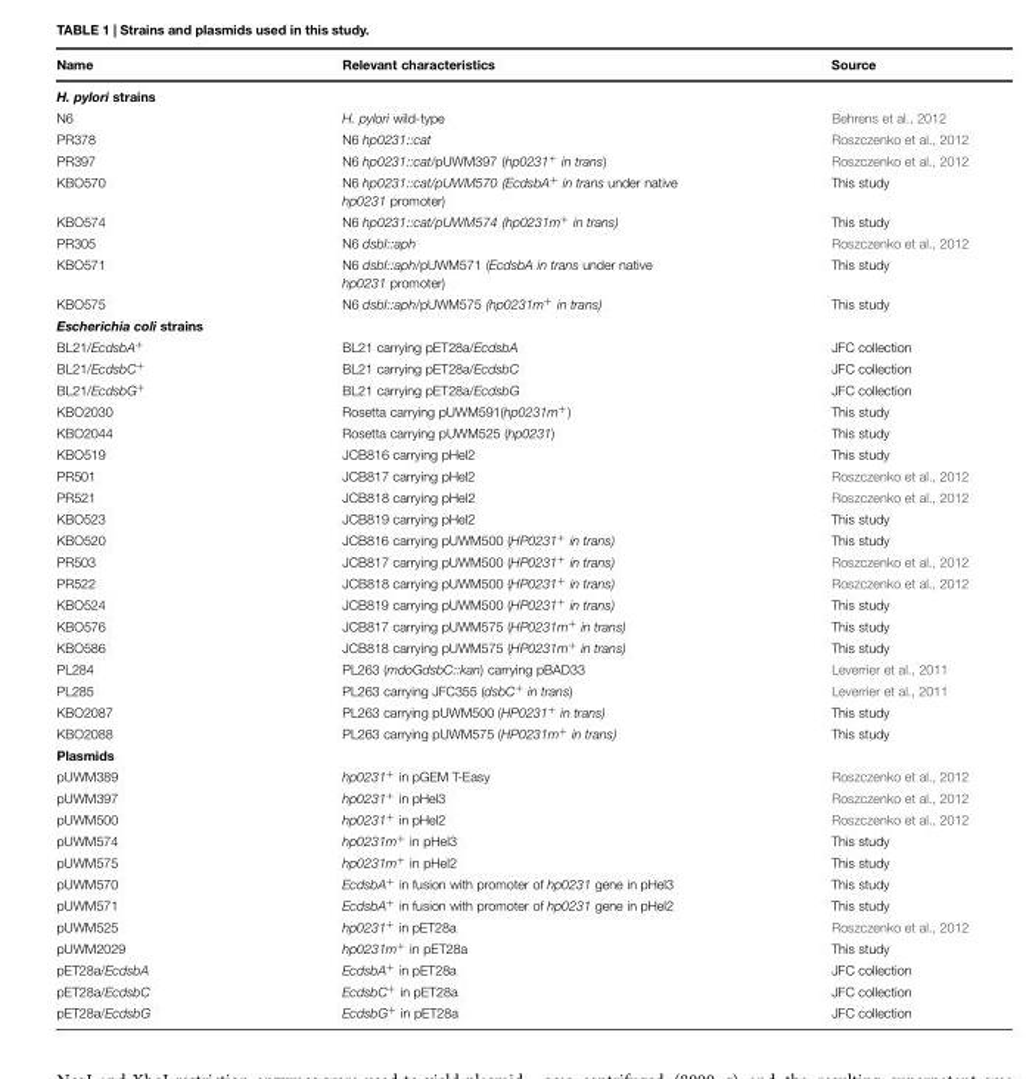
<table><thead><tr><td>Name</td><td>Relevant characteristics</td><td>Source</td></tr></thead><tbody><tr><td colspan="3">H. pylori strains</td></tr><tr><td>N6</td><td>H. pylori wild-type</td><td>Behrens et al., 2012</td></tr><tr><td>PR378</td><td>N6 hp0231::cat</td><td>Roszczenko et al., 2012</td></tr><tr><td>PR397</td><td>N6 hp0231::cat/pUWM397 (hp0231+ in trans)</td><td>Roszczenko et al., 2012</td></tr><tr><td>KBO570</td><td>N6 hp0231::cat/pUWM570 (EcdsbA<sup>+</sup> in trans under native hp0231 promoter)</td><td>This study</td></tr><tr><td>KBO574</td><td>N6 hp0231::cat/pUWM574 (hp0231m<sup>+</sup> in trans)</td><td>This study</td></tr><tr><td>PR305</td><td>N6 dsbI::aph</td><td>Roszczenko et al., 2012</td></tr><tr><td>KBO571</td><td>N6 dsbI::aph/pUWM571 (EcdsbA in trans under native hp0231 promoter)</td><td>This study</td></tr><tr><td>KBO575</td><td>N6 dsbI::aph/pUWM575 (hp0231m<sup>+</sup> in trans)</td><td>This study</td></tr><tr><td colspan="3">Escherichia coli strains</td></tr><tr><td>BL21/EcdsbA<sup>+</sup></td><td>BL21 carrying pET28a/EcdsbA</td><td>JFC collection</td></tr><tr><td>BL21/EcdsbC<sup>+</sup></td><td>BL21 carrying pET28a/EcdsbC</td><td>JFC collection</td></tr><tr><td>BL21/EcdsbG<sup>+</sup></td><td>BL21 carrying pET28a/EcdsbG</td><td>JFC collection</td></tr><tr><td>KBO2030</td><td>Rosetta carrying pUWM591(hp0231m<sup>+</sup>)</td><td>This study</td></tr><tr><td>KBO2044</td><td>Rosetta carrying pUWM525 (hp0231)</td><td>This study</td></tr><tr><td>KBO519</td><td>JCB816 carrying pHel2</td><td>This study</td></tr><tr><td>PR501</td><td>JCB817 carrying pHel2</td><td>Roszczenko et al., 2012</td></tr><tr><td>PR521</td><td>JCB818 carrying pHel2</td><td>Roszczenko et al., 2012</td></tr><tr><td>KBO523</td><td>JCB819 carrying pHel2</td><td>This study</td></tr><tr><td>KBO520</td><td>JCB816 carrying pUWM500 (HP0231<sup>+</sup> in trans)</td><td>This study</td></tr><tr><td>PR503</td><td>JCB817 carrying pUWM500 (HP0231<sup>+</sup> in trans)</td><td>Roszczenko et al., 2012</td></tr><tr><td>PR522</td><td>JCB818 carrying pUWM500 (HP0231<sup>+</sup> in trans)</td><td>Roszczenko et al., 2012</td></tr><tr><td>KBO524</td><td>JCB819 carrying pUWM500 (HP0231<sup>+</sup> in trans)</td><td>This study</td></tr><tr><td>KBO576</td><td>JCB817 carrying pUWM575 (HP0231m<sup>+</sup> in trans)</td><td>This study</td></tr><tr><td>KBO586</td><td>JCB818 carrying pUWM575 (HP0231m<sup>+</sup> in trans)</td><td>This study</td></tr><tr><td>PL284</td><td>PL263 (mdoGdsbC::kan) carrying pBAD33</td><td>Leverrier et al., 2011</td></tr><tr><td>PL285</td><td>PL263 carrying JFC355 (dsbC<sup>+</sup> in trans)</td><td>Leverrier et al., 2011</td></tr><tr><td>KBO2087</td><td>PL263 carrying pUWM500 (HP0231<sup>+</sup> in trans)</td><td>This study</td></tr><tr><td>KBO2088</td><td>PL263 carrying pUWM575 (HP0231m<sup>+</sup> in trans)</td><td>This study</td></tr><tr><td colspan="3">Plasmids</td></tr><tr><td>pUWM389</td><td>hp0231<sup>+</sup> in pGEM T-Easy</td><td>Roszczenko et al., 2012</td></tr><tr><td>pUWM397</td><td>hp0231<sup>+</sup> in pHel3</td><td>Roszczenko et al., 2012</td></tr><tr><td>pUWM500</td><td>hp0231<sup>+</sup> in pHel2</td><td>Roszczenko et al., 2012</td></tr><tr><td>pUWM574</td><td>hp0231m<sup>+</sup> in pHel3</td><td>This study</td></tr><tr><td>pUWM575</td><td>hp0231m<sup>+</sup> in pHel2</td><td>This study</td></tr><tr><td>pUWM570</td><td>EcdsbA<sup>+</sup> in fusion with promoter of hp0231 gene in pHel3</td><td>This study</td></tr><tr><td>pUWM571</td><td>EcdsbA<sup>+</sup> in fusion with promoter of hp0231 gene in pHel2</td><td>This study</td></tr><tr><td>pUWM525</td><td>hp0231<sup>+</sup> in pET28a</td><td>Roszczenko et al., 2012</td></tr><tr><td>pUWM2029</td><td>hp0231m<sup>+</sup> in pET28a</td><td>This study</td></tr><tr><td>pET28a/EcdsbA</td><td>EcdsbA<sup>+</sup> in pET28a</td><td>JFC collection</td></tr><tr><td>pET28a/EcdsbC</td><td>EcdsbC<sup>+</sup> in pET28a</td><td>JFC collection</td></tr><tr><td>pET28a/EcdsbG</td><td>EcdsbG<sup>+</sup> in pET28a</td><td>JFC collection</td></tr></tbody></table>